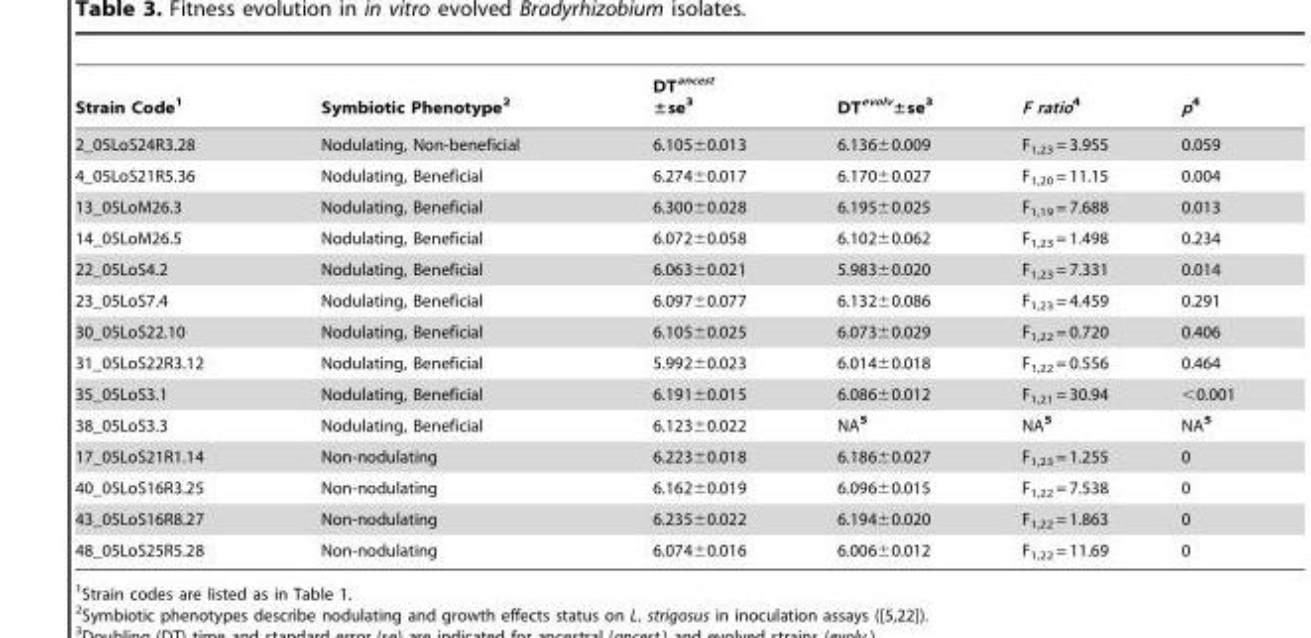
<table><thead><tr><td>Strain Code<sup>1</sup></td><td>Symbiotic Phenotype<sup>2</sup></td><td>DT<sup>ancest</sup> ±se<sup>3</sup></td><td>DT<sup>evolv</sup>±se<sup>3</sup></td><td>F ratio4</td><td>p4</td></tr></thead><tbody><tr><td>2_05LoS24R3.28</td><td>Nodulating, Non-beneficial</td><td>6.105±0.013</td><td>6.136±0.009</td><td>F<sub>1,23</sub> = 3.955</td><td>0.059</td></tr><tr><td>4_05LoS21R5.36</td><td>Nodulating, Beneficial</td><td>6.274±0.017</td><td>6.170±0.027</td><td>F<sub>1,20</sub> = 11.15</td><td>0.004</td></tr><tr><td>13_05LoM26.3</td><td>Nodulating, Beneficial</td><td>6.300±0.028</td><td>6.195±0.025</td><td>F<sub>1,19</sub> = 7.688</td><td>0.013</td></tr><tr><td>14_05LoM26.5</td><td>Nodulating, Beneficial</td><td>6.072±0.058</td><td>6.102±0.062</td><td>F<sub>1,23</sub> = 1.498</td><td>0.234</td></tr><tr><td>22_05LoS4.2</td><td>Nodulating, Beneficial</td><td>6.063±0.021</td><td>5.983±0.020</td><td>F<sub>1,23</sub> = 7.331</td><td>0.014</td></tr><tr><td>23_05LoS7.4</td><td>Nodulating, Beneficial</td><td>6.097±0.077</td><td>6.132±0.086</td><td>F<sub>1,23</sub> = 4.459</td><td>0.291</td></tr><tr><td>30_05LoS22.10</td><td>Nodulating, Beneficial</td><td>6.105±0.025</td><td>6.073±0.029</td><td>F<sub>1,22</sub> = 0.720</td><td>0.406</td></tr><tr><td>31_05LoS22R3.12</td><td>Nodulating, Beneficial</td><td>5.992±0.023</td><td>6.014±0.018</td><td>F<sub>1,22</sub> = 0.556</td><td>0.464</td></tr><tr><td>35_05LoS3.1</td><td>Nodulating, Beneficial</td><td>6.191±0.015</td><td>6.086±0.012</td><td>F<sub>1,21</sub> = 30.94</td><td>&lt;0.001</td></tr><tr><td>38_05LoS3.3</td><td>Nodulating, Beneficial</td><td>6.123±0.022</td><td>NA<sup>5</sup></td><td>NA<sup>5</sup></td><td>NA<sup>5</sup></td></tr><tr><td>17_05LoS21R1.14</td><td>Non-nodulating</td><td>6.223±0.018</td><td>6.186±0.027</td><td>F<sub>1,23</sub> = 1.255</td><td>0</td></tr><tr><td>40_05LoS16R3.25</td><td>Non-nodulating</td><td>6.162±0.019</td><td>6.096±0.015</td><td>F<sub>1,22</sub> = 7.538</td><td>0</td></tr><tr><td>43_05LoS16R8.27</td><td>Non-nodulating</td><td>6.235±0.022</td><td>6.194±0.020</td><td>F<sub>1,22</sub> = 1.863</td><td>0</td></tr><tr><td>48_05LoS25R5.28</td><td>Non-nodulating</td><td>6.074±0.016</td><td>6.006±0.012</td><td>F<sub>1,22</sub> = 11.69</td><td>0</td></tr></tbody></table>